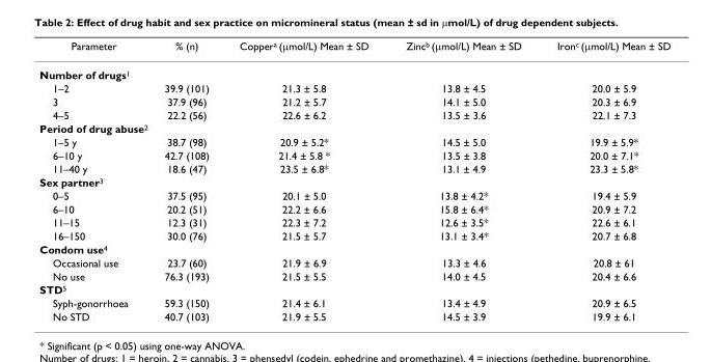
<table><thead><tr><td>Parameter</td><td>% (n)</td><td>Copper<sup>a</sup> (μmol/L) Mean ± SD</td><td>Zinc<sup>b</sup> (μmol/L) Mean ± SD</td><td>Iron<sup>c</sup> (μmol/L) Mean ± SD</td></tr></thead><tbody><tr><td colspan="5">Number of drugs<sup>1</sup></td></tr><tr><td>1–2</td><td>39.9 (101)</td><td>21.3 ± 5.8</td><td>13.8 ± 4.5</td><td>20.0 ± 5.9</td></tr><tr><td>3</td><td>37.9 (96)</td><td>21.2 ± 5.7</td><td>14.1 ± 5.0</td><td>20.3 ± 6.9</td></tr><tr><td>4–5</td><td>22.2 (56)</td><td>22.6 ± 6.2</td><td>13.5 ± 3.6</td><td>22.1 ± 7.3</td></tr><tr><td colspan="5">Period of drug abuse<sup>2</sup></td></tr><tr><td>1–5 y</td><td>38.7 (98)</td><td>20.9 ± 5.2*</td><td>14.5 ± 5.0</td><td>19.9 ± 5.9*</td></tr><tr><td>6–10 y</td><td>42.7 (108)</td><td>21.4 ± 5.8 *</td><td>13.5 ± 3.8</td><td>20.0 ± 7.1*</td></tr><tr><td>11–40 y</td><td>18.6 (47)</td><td>23.5 ± 6.8*</td><td>13.1 ± 4.9</td><td>23.3 ± 5.8*</td></tr><tr><td colspan="5">Sex partner<sup>3</sup></td></tr><tr><td>0–5</td><td>37.5 (95)</td><td>20.1 ± 5.0</td><td>13.8 ± 4.2*</td><td>19.4 ± 5.9</td></tr><tr><td>6–10</td><td>20.2 (51)</td><td>22.2 ± 6.6</td><td>15.8 ± 6.4*</td><td>20.9 ± 7.2</td></tr><tr><td>11–15</td><td>12.3 (31)</td><td>22.3 ± 7.2</td><td>12.6 ± 3.5*</td><td>22.6 ± 6.1</td></tr><tr><td>16–150</td><td>30.0 (76)</td><td>21.5 ± 5.7</td><td>13.1 ± 3.4*</td><td>20.7 ± 6.8</td></tr><tr><td colspan="5">Condom use<sup>4</sup></td></tr><tr><td>Occasional use</td><td>23.7 (60)</td><td>21.9 ± 6.9</td><td>13.3 ± 4.6</td><td>20.8 ± 61</td></tr><tr><td>No use</td><td>76.3 (193)</td><td>21.5 ± 5.5</td><td>14.0 ± 4.5</td><td>20.4 ± 6.6</td></tr><tr><td colspan="5">STD<sup>5</sup></td></tr><tr><td>Syph-gonorrhoea</td><td>59.3 (150)</td><td>21.4 ± 6.1</td><td>13.4 ± 4.9</td><td>20.9 ± 6.5</td></tr><tr><td>No STD</td><td>40.7 (103)</td><td>21.9 ± 5.5</td><td>14.5 ± 3.9</td><td>19.9 ± 6.1</td></tr></tbody></table>